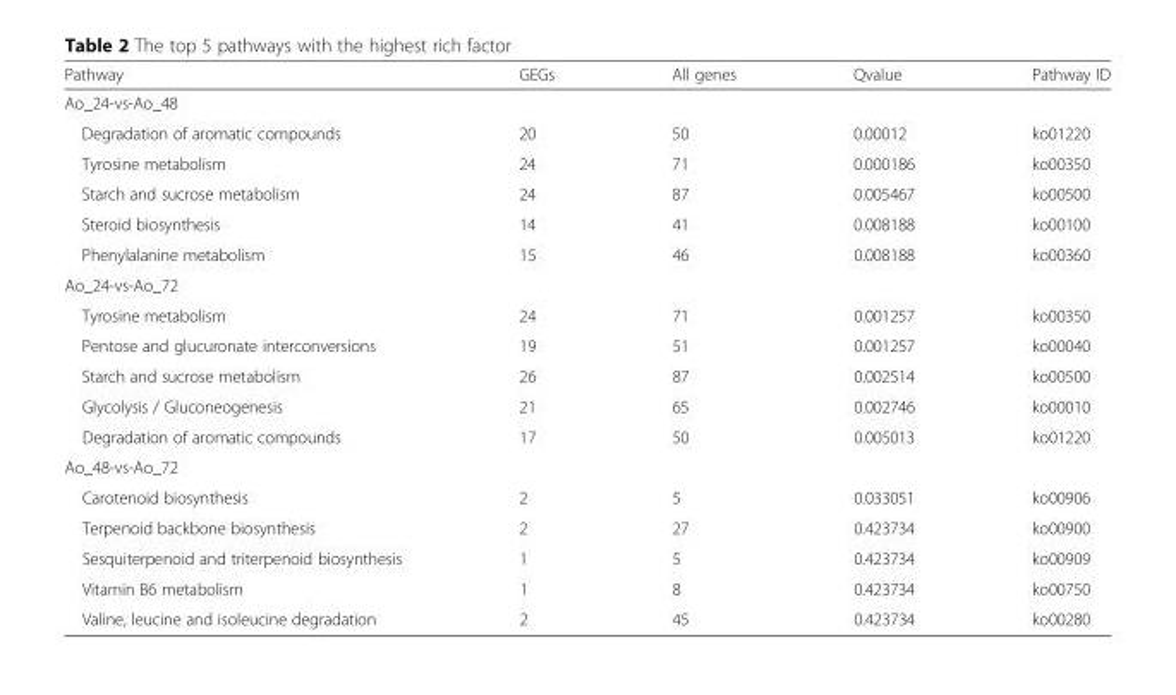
<table><thead><tr><td>Pathway</td><td>GEGs</td><td>All genes</td><td>Qvalue</td><td>Pathway ID</td></tr></thead><tbody><tr><td colspan="5">Ao_24-vs-Ao_48</td></tr><tr><td>Degradation of aromatic compounds</td><td>20</td><td>50</td><td>0.00012</td><td>ko01220</td></tr><tr><td>Tyrosine metabolism</td><td>24</td><td>71</td><td>0.000186</td><td>ko00350</td></tr><tr><td>Starch and sucrose metabolism</td><td>24</td><td>87</td><td>0.005467</td><td>ko00500</td></tr><tr><td>Steroid biosynthesis</td><td>14</td><td>41</td><td>0.008188</td><td>ko00100</td></tr><tr><td>Phenylalanine metabolism</td><td>15</td><td>46</td><td>0.008188</td><td>ko00360</td></tr><tr><td colspan="5">Ao_24-vs-Ao_72</td></tr><tr><td>Tyrosine metabolism</td><td>24</td><td>71</td><td>0.001257</td><td>ko00350</td></tr><tr><td>Pentose and glucuronate interconversions</td><td>19</td><td>51</td><td>0.001257</td><td>ko00040</td></tr><tr><td>Starch and sucrose metabolism</td><td>26</td><td>87</td><td>0.002514</td><td>ko00500</td></tr><tr><td>Glycolysis / Gluconeogenesis</td><td>21</td><td>65</td><td>0.002746</td><td>ko00010</td></tr><tr><td>Degradation of aromatic compounds</td><td>17</td><td>50</td><td>0.005013</td><td>ko01220</td></tr><tr><td colspan="5">Ao_48-vs-Ao_72</td></tr><tr><td>Carotenoid biosynthesis</td><td>2</td><td>5</td><td>0.033051</td><td>ko00906</td></tr><tr><td>Terpenoid backbone biosynthesis</td><td>2</td><td>27</td><td>0.423734</td><td>ko00900</td></tr><tr><td>Sesquiterpenoid and triterpenoid biosynthesis</td><td>1</td><td>5</td><td>0.423734</td><td>ko00909</td></tr><tr><td>Vitamin B6 metabolism</td><td>1</td><td>8</td><td>0.423734</td><td>ko00750</td></tr><tr><td>Valine, leucine and isoleucine degradation</td><td>2</td><td>45</td><td>0.423734</td><td>ko00280</td></tr></tbody></table>